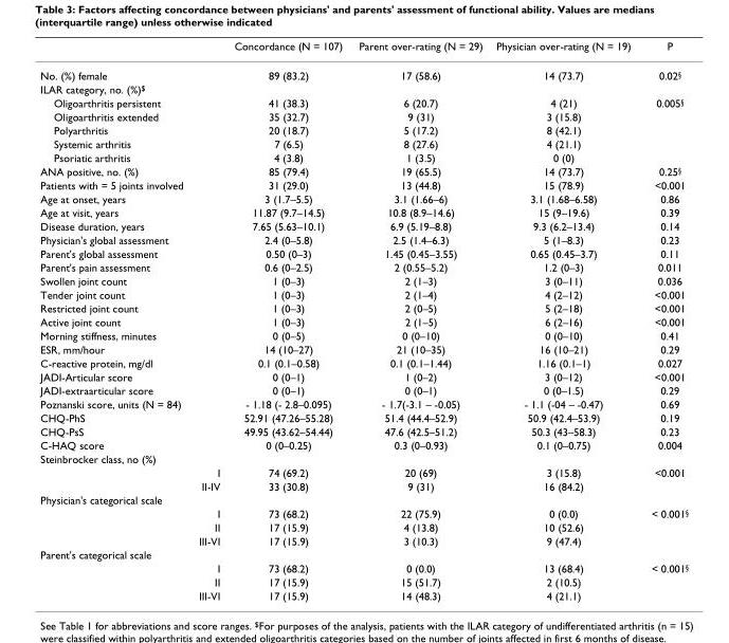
<table><thead><tr><td></td><td>Concordance (N = 107)</td><td>Parent over-rating (N = 29)</td><td>Physician over-rating (N = 19)</td><td>P</td></tr></thead><tbody><tr><td>No. (%) female</td><td>89 (83.2)</td><td>17 (58.6)</td><td>14 (73.7)</td><td>0.02<sup>§</sup></td></tr><tr><td colspan="5">ILAR category, no. (%)<sup>$</sup></td></tr><tr><td>Oligoarthritis persistent</td><td>41 (38.3)</td><td>6 (20.7)</td><td>4 (21)</td><td>0.005<sup>§</sup></td></tr><tr><td>Oligoarthritis extended</td><td>35 (32.7)</td><td>9 (31)</td><td>3 (15.8)</td><td></td></tr><tr><td>Polyarthritis</td><td>20 (18.7)</td><td>5 (17.2)</td><td>8 (42.1)</td><td></td></tr><tr><td>Systemic arthritis</td><td>7 (6.5)</td><td>8 (27.6)</td><td>4 (21.1)</td><td></td></tr><tr><td>Psoriatic arthritis</td><td>4 (3.8)</td><td>1 (3.5)</td><td>0 (0)</td><td></td></tr><tr><td>ANA positive, no. (%)</td><td>85 (79.4)</td><td>19 (65.5)</td><td>14 (73.7)</td><td>0.25<sup>§</sup></td></tr><tr><td>Patients with = 5 joints involved</td><td>31 (29.0)</td><td>13 (44.8)</td><td>15 (78.9)</td><td>&lt;0.001</td></tr><tr><td>Age at onset, years</td><td>3 (1.7–5.5)</td><td>3.1 (1.66–6)</td><td>3.1 (1.68–6.58)</td><td>0.86</td></tr><tr><td>Age at visit, years</td><td>11.87 (9.7–14.5)</td><td>10.8 (8.9–14.6)</td><td>15 (9–19.6)</td><td>0.39</td></tr><tr><td>Disease duration, years</td><td>7.65 (5.63–10.1)</td><td>6.9 (5.19–8.8)</td><td>9.3 (6.2–13.4)</td><td>0.14</td></tr><tr><td>Physician&#x27;s global assessment</td><td>2.4 (0–5.8)</td><td>2.5 (1.4–6.3)</td><td>5 (1–8.3)</td><td>0.23</td></tr><tr><td>Parent&#x27;s global assessment</td><td>0.50 (0–3)</td><td>1.45 (0.45–3.55)</td><td>0.65 (0.45–3.7)</td><td>0.11</td></tr><tr><td>Parent&#x27;s pain assessment</td><td>0.6 (0–2.5)</td><td>2 (0.55–5.2)</td><td>1.2 (0–3)</td><td>0.011</td></tr><tr><td>Swollen joint count</td><td>1 (0–3)</td><td>2 (1–3)</td><td>3 (0–11)</td><td>0.036</td></tr><tr><td>Tender joint count</td><td>1 (0–3)</td><td>2 (1–4)</td><td>4 (2–12)</td><td>&lt;0.001</td></tr><tr><td>Restricted joint count</td><td>1 (0–3)</td><td>2 (0–5)</td><td>5 (2–18)</td><td>&lt;0.001</td></tr><tr><td>Active joint count</td><td>1 (0–3)</td><td>2 (1–5)</td><td>6 (2–16)</td><td>&lt;0.001</td></tr><tr><td>Morning stiffness, minutes</td><td>0 (0–5)</td><td>0 (0–10)</td><td>0 (0–10)</td><td>0.41</td></tr><tr><td>ESR, mm/hour</td><td>14 (10–27)</td><td>21 (10–35)</td><td>16 (10–21)</td><td>0.29</td></tr><tr><td>C-reactive protein, mg/dl</td><td>0.1 (0.1–0.58)</td><td>0.1 (0.1–1.44)</td><td>1.16 (0.1–1)</td><td>0.027</td></tr><tr><td>JADI-Articular score</td><td>0 (0–1)</td><td>1 (0–2)</td><td>3 (0–12)</td><td>&lt;0.001</td></tr><tr><td>JADI-extraarticular score</td><td>0 (0–1)</td><td>0 (0–1)</td><td>0 (0–1.5)</td><td>0.29</td></tr><tr><td>Poznanski score, units (N = 84)</td><td>- 1.18 (- 2.8–0.095)</td><td>- 1.7(-3.1 – -0.05)</td><td>- 1.1 (-04 – -0.47)</td><td>0.69</td></tr><tr><td>CHQ-PhS</td><td>52.91 (47.26–55.28)</td><td>51.4 (44.4–52.9)</td><td>50.9 (42.4–53.9)</td><td>0.19</td></tr><tr><td>CHQ-PsS</td><td>49.95 (43.62–54.44)</td><td>47.6 (42.5–51.2)</td><td>50.3 (43–58.3)</td><td>0.23</td></tr><tr><td>C-HAQ score</td><td>0 (0–0.25)</td><td>0.3 (0–0.93)</td><td>0.1 (0–0.75)</td><td>0.004</td></tr><tr><td colspan="5">Steinbrocker class, no (%)</td></tr><tr><td>I</td><td>74 (69.2)</td><td>20 (69)</td><td>3 (15.8)</td><td>&lt;0.001</td></tr><tr><td>II-IV</td><td>33 (30.8)</td><td>9 (31)</td><td>16 (84.2)</td><td></td></tr><tr><td colspan="5">Physician&#x27;s categorical scale</td></tr><tr><td>I</td><td>73 (68.2)</td><td>22 (75.9)</td><td>0 (0.0)</td><td>&lt; 0.001<sup>§</sup></td></tr><tr><td>II</td><td>17 (15.9)</td><td>4 (13.8)</td><td>10 (52.6)</td><td></td></tr><tr><td>III-VI</td><td>17 (15.9)</td><td>3 (10.3)</td><td>9 (47.4)</td><td></td></tr><tr><td colspan="5">Parent&#x27;s categorical scale</td></tr><tr><td>I</td><td>73 (68.2)</td><td>0 (0.0)</td><td>13 (68.4)</td><td>&lt; 0.001<sup>§</sup></td></tr><tr><td>II</td><td>17 (15.9)</td><td>15 (51.7)</td><td>2 (10.5)</td><td></td></tr><tr><td>III-VI</td><td>17 (15.9)</td><td>14 (48.3)</td><td>4 (21.1)</td><td></td></tr></tbody></table>